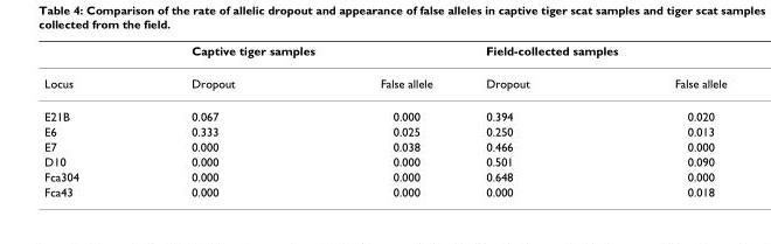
<table><thead><tr><td rowspan="2">Locus</td><td colspan="2">Captive tiger samples</td><td colspan="2">Field-collected samples</td></tr><tr><td>Dropout</td><td>False allele</td><td>Dropout</td><td>False allele</td></tr></thead><tbody><tr><td>E21B</td><td>0.067</td><td>0.000</td><td>0.394</td><td>0.020</td></tr><tr><td>E6</td><td>0.333</td><td>0.025</td><td>0.250</td><td>0.013</td></tr><tr><td>E7</td><td>0.000</td><td>0.038</td><td>0.466</td><td>0.000</td></tr><tr><td>D10</td><td>0.000</td><td>0.000</td><td>0.501</td><td>0.090</td></tr><tr><td>Fca304</td><td>0.000</td><td>0.000</td><td>0.648</td><td>0.000</td></tr><tr><td>Fca43</td><td>0.000</td><td>0.000</td><td>0.000</td><td>0.018</td></tr></tbody></table>